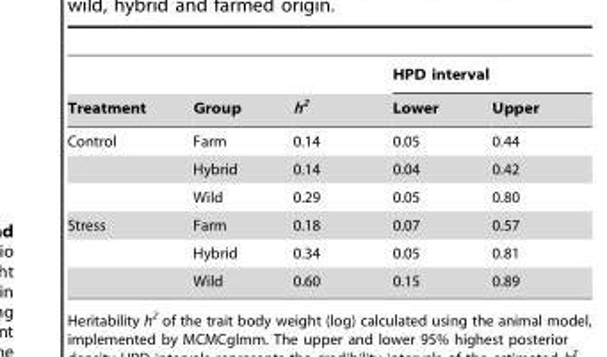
<table><thead><tr><td rowspan="2">Treatment</td><td rowspan="2">Group</td><td rowspan="2">h<sup>2</sup></td><td colspan="2">HPD interval</td></tr><tr><td>Lower</td><td>Upper</td></tr></thead><tbody><tr><td rowspan="3">Control</td><td>Farm</td><td>0.14</td><td>0.05</td><td>0.44</td></tr><tr><td>Hybrid</td><td>0.14</td><td>0.04</td><td>0.42</td></tr><tr><td>Wild</td><td>0.29</td><td>0.05</td><td>0.80</td></tr><tr><td rowspan="3">Stress</td><td>Farm</td><td>0.18</td><td>0.07</td><td>0.57</td></tr><tr><td>Hybrid</td><td>0.34</td><td>0.05</td><td>0.81</td></tr><tr><td>Wild</td><td>0.60</td><td>0.15</td><td>0.89</td></tr></tbody></table>